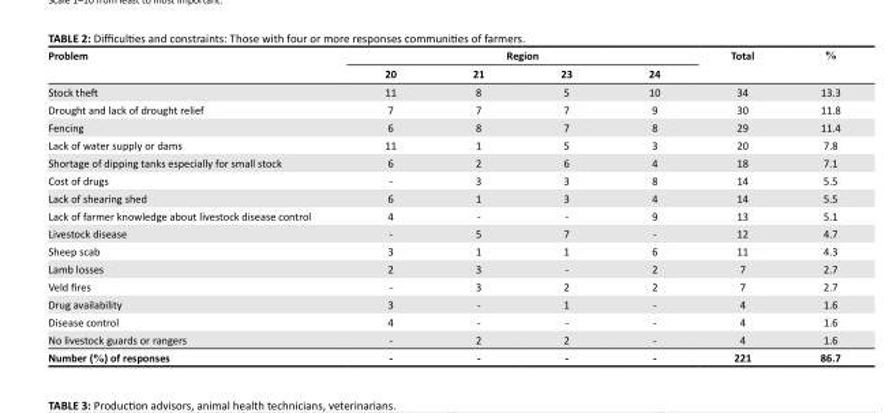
<table><thead><tr><td rowspan="2">Problem</td><td colspan="4">Region</td><td rowspan="2">Total</td><td rowspan="2">%</td></tr><tr><td>20</td><td>21</td><td>23</td><td>24</td></tr></thead><tbody><tr><td>Stock theft</td><td>11</td><td>8</td><td>5</td><td>10</td><td>34</td><td>13.3</td></tr><tr><td>Drought and lack of drought relief</td><td>7</td><td>7</td><td>7</td><td>9</td><td>30</td><td>11.8</td></tr><tr><td>Fencing</td><td>6</td><td>8</td><td>7</td><td>8</td><td>29</td><td>11.4</td></tr><tr><td>Lack of water supply or dams</td><td>11</td><td>1</td><td>5</td><td>3</td><td>20</td><td>7.8</td></tr><tr><td>Shortage of dipping tanks especially for small stock</td><td>6</td><td>2</td><td>6</td><td>4</td><td>18</td><td>7.1</td></tr><tr><td>Cost of drugs</td><td>-</td><td>3</td><td>3</td><td>8</td><td>14</td><td>5.5</td></tr><tr><td>Lack of shearing shed</td><td>6</td><td>1</td><td>3</td><td>4</td><td>14</td><td>5.5</td></tr><tr><td>Lack of farmer knowledge about livestock disease control</td><td>4</td><td>-</td><td>-</td><td>9</td><td>13</td><td>5.1</td></tr><tr><td>Livestock disease</td><td>-</td><td>5</td><td>7</td><td>-</td><td>12</td><td>4.7</td></tr><tr><td>Sheep scab</td><td>3</td><td>1</td><td>1</td><td>6</td><td>11</td><td>4.3</td></tr><tr><td>Lamb losses</td><td>2</td><td>3</td><td>-</td><td>2</td><td>7</td><td>2.7</td></tr><tr><td>Veld fires</td><td>-</td><td>3</td><td>2</td><td>2</td><td>7</td><td>2.7</td></tr><tr><td>Drug availability</td><td>3</td><td>-</td><td>1</td><td>-</td><td>4</td><td>1.6</td></tr><tr><td>Disease control</td><td>4</td><td>-</td><td>-</td><td>-</td><td>4</td><td>1.6</td></tr><tr><td>No livestock guards or rangers</td><td>-</td><td>2</td><td>2</td><td>-</td><td>4</td><td>1.6</td></tr><tr><td>Number (%) of responses</td><td>-</td><td>-</td><td>-</td><td>-</td><td>221</td><td>86.7</td></tr></tbody></table>